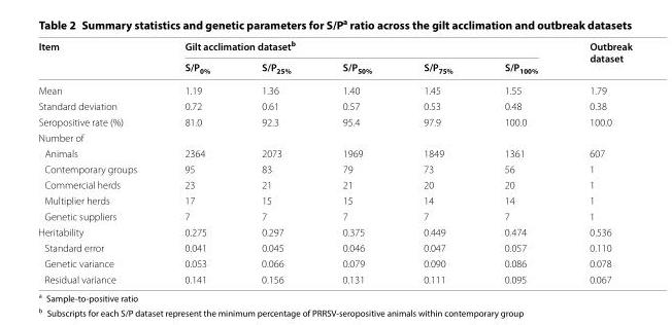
<table><thead><tr><td rowspan="2">Item</td><td colspan="5">Gilt acclimation dataset<sup>b</sup></td><td rowspan="2">Outbreak dataset</td></tr><tr><td>S/P<sub>0%</sub></td><td>S/P<sub>25%</sub></td><td>S/P<sub>50%</sub></td><td>S/P<sub>75%</sub></td><td>S/P<sub>100%</sub></td></tr></thead><tbody><tr><td>Mean</td><td>1.19</td><td>1.36</td><td>1.40</td><td>1.45</td><td>1.55</td><td>1.79</td></tr><tr><td>Standard deviation</td><td>0.72</td><td>0.61</td><td>0.57</td><td>0.53</td><td>0.48</td><td>0.38</td></tr><tr><td>Seropositive rate (%)</td><td>81.0</td><td>92.3</td><td>95.4</td><td>97.9</td><td>100.0</td><td>100.0</td></tr><tr><td colspan="7">Number of</td></tr><tr><td>Animals</td><td>2364</td><td>2073</td><td>1969</td><td>1849</td><td>1361</td><td>607</td></tr><tr><td>Contemporary groups</td><td>95</td><td>83</td><td>79</td><td>73</td><td>56</td><td>1</td></tr><tr><td>Commercial herds</td><td>23</td><td>21</td><td>21</td><td>20</td><td>20</td><td>1</td></tr><tr><td>Multiplier herds</td><td>17</td><td>15</td><td>15</td><td>14</td><td>14</td><td>1</td></tr><tr><td>Genetic suppliers</td><td>7</td><td>7</td><td>7</td><td>7</td><td>7</td><td>1</td></tr><tr><td>Heritability</td><td>0.275</td><td>0.297</td><td>0.375</td><td>0.449</td><td>0.474</td><td>0.536</td></tr><tr><td>Standard error</td><td>0.041</td><td>0.045</td><td>0.046</td><td>0.047</td><td>0.057</td><td>0.110</td></tr><tr><td>Genetic variance</td><td>0.053</td><td>0.066</td><td>0.079</td><td>0.090</td><td>0.086</td><td>0.078</td></tr><tr><td>Residual variance</td><td>0.141</td><td>0.156</td><td>0.131</td><td>0.111</td><td>0.095</td><td>0.067</td></tr></tbody></table>